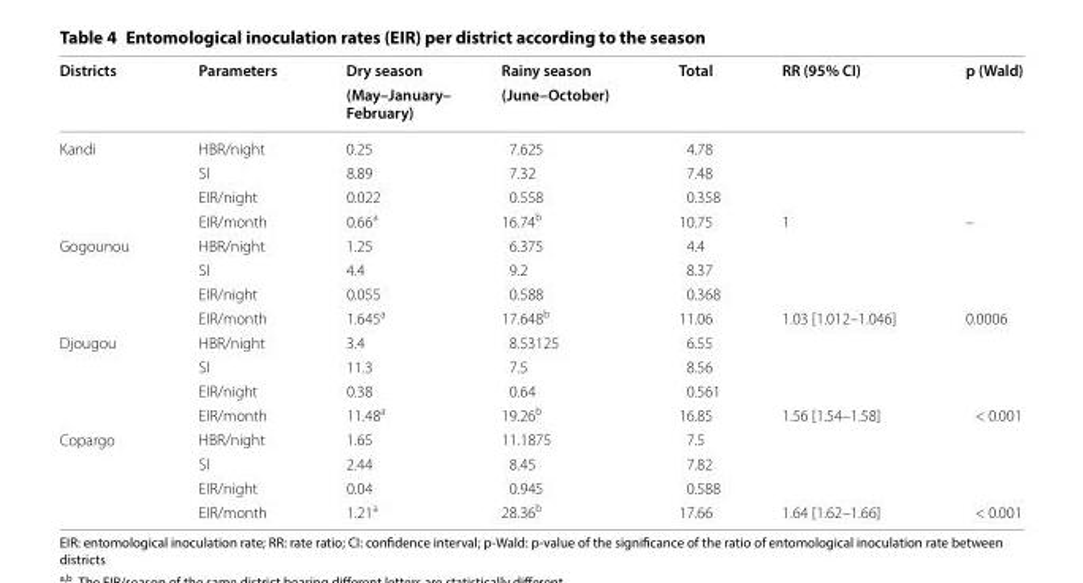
<table><thead><tr><td rowspan="2">Districts</td><td rowspan="2">Parameters</td><td rowspan="2">Dry season (May–January– February)</td><td rowspan="2">Rainy season (June–October)</td><td rowspan="2">Total</td><td rowspan="2">RR (95% CI)</td><td rowspan="2">p (Wald)</td></tr><tr></tr></thead><tbody><tr><td rowspan="4">Kandi</td><td>HBR/night</td><td>0.25</td><td>7.625</td><td>4.78</td><td></td><td></td></tr><tr><td>SI</td><td>8.89</td><td>7.32</td><td>7.48</td><td></td><td></td></tr><tr><td>EIR/night</td><td>0.022</td><td>0.558</td><td>0.358</td><td></td><td></td></tr><tr><td>EIR/month</td><td>0.66<sup>a</sup></td><td>16.74<sup>b</sup></td><td>10.75</td><td>1</td><td>–</td></tr><tr><td rowspan="4">Gogounou</td><td>HBR/night</td><td>1.25</td><td>6.375</td><td>4.4</td><td></td><td></td></tr><tr><td>SI</td><td>4.4</td><td>9.2</td><td>8.37</td><td></td><td></td></tr><tr><td>EIR/night</td><td>0.055</td><td>0.588</td><td>0.368</td><td></td><td></td></tr><tr><td>EIR/month</td><td>1.645<sup>a</sup></td><td>17.648<sup>b</sup></td><td>11.06</td><td>1.03 [1.012–1.046]</td><td>0.0006</td></tr><tr><td rowspan="4">Djougou</td><td>HBR/night</td><td>3.4</td><td>8.53125</td><td>6.55</td><td></td><td></td></tr><tr><td>SI</td><td>11.3</td><td>7.5</td><td>8.56</td><td></td><td></td></tr><tr><td>EIR/night</td><td>0.38</td><td>0.64</td><td>0.561</td><td></td><td></td></tr><tr><td>EIR/month</td><td>11.48<sup>a</sup></td><td>19.26<sup>b</sup></td><td>16.85</td><td>1.56 [1.54–1.58]</td><td>&lt; 0.001</td></tr><tr><td rowspan="4">Copargo</td><td>HBR/night</td><td>1.65</td><td>11.1875</td><td>7.5</td><td></td><td></td></tr><tr><td>SI</td><td>2.44</td><td>8.45</td><td>7.82</td><td></td><td></td></tr><tr><td>EIR/night</td><td>0.04</td><td>0.945</td><td>0.588</td><td></td><td></td></tr><tr><td>EIR/month</td><td>1.21<sup>a</sup></td><td>28.36<sup>b</sup></td><td>17.66</td><td>1.64 [1.62–1.66]</td><td>&lt; 0.001</td></tr></tbody></table>